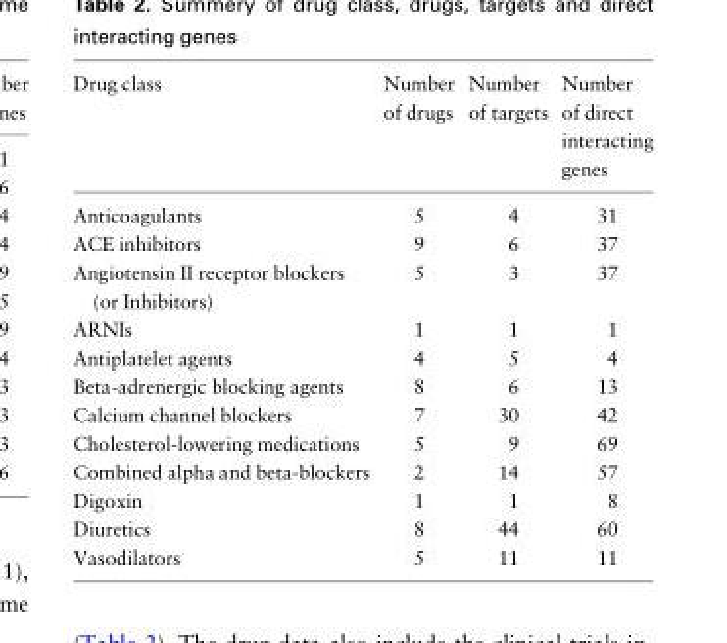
<table><thead><tr><td>Drug class</td><td>Number of drugs</td><td>Number of targets</td><td>Number of direct interacting genes</td></tr></thead><tbody><tr><td>Anticoagulants</td><td>5</td><td>4</td><td>31</td></tr><tr><td>ACE inhibitors</td><td>9</td><td>6</td><td>37</td></tr><tr><td>Angiotensin II receptor blockers (or Inhibitors)</td><td>5</td><td>3</td><td>37</td></tr><tr><td>ARNIs</td><td>1</td><td>1</td><td>1</td></tr><tr><td>Antiplatelet agents</td><td>4</td><td>5</td><td>4</td></tr><tr><td>Beta-adrenergic blocking agents</td><td>8</td><td>6</td><td>13</td></tr><tr><td>Calcium channel blockers</td><td>7</td><td>30</td><td>42</td></tr><tr><td>Cholesterol-lowering medications</td><td>5</td><td>9</td><td>69</td></tr><tr><td>Combined alpha and beta-blockers</td><td>2</td><td>14</td><td>57</td></tr><tr><td>Digoxin</td><td>1</td><td>1</td><td>8</td></tr><tr><td>Diuretics</td><td>8</td><td>44</td><td>60</td></tr><tr><td>Vasodilators</td><td>5</td><td>11</td><td>11</td></tr></tbody></table>